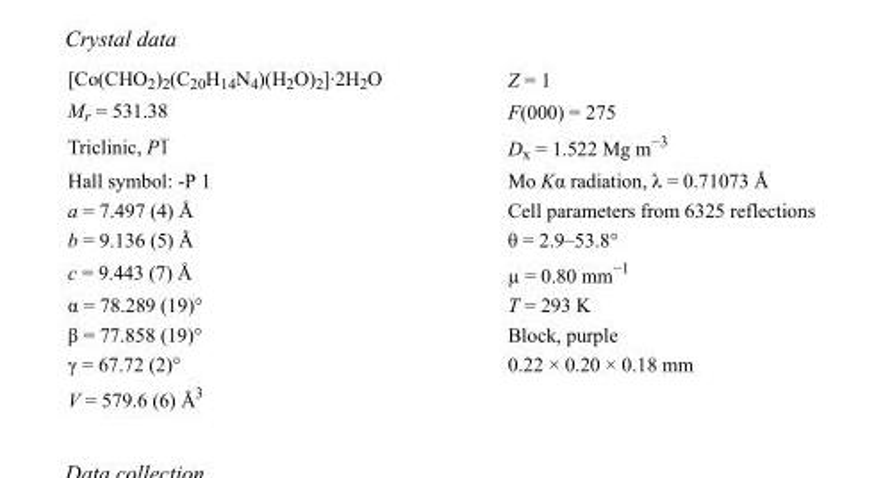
<table><tbody><tr><td>[Co(CHO<sub>2</sub>)<sub>2</sub>(C<sub>20</sub>H<sub>14</sub>N<sub>4</sub>)(H<sub>2</sub>O)<sub>2</sub>]·2H<sub>2</sub>O</td><td>Z = 1</td></tr><tr><td>M<sub>r</sub> = 531.38</td><td>F(000) = 275</td></tr><tr><td>Triclinic, P1</td><td>D<sub>x</sub> = 1.522 Mg m<sup>−3</sup></td></tr><tr><td>Hall symbol: -P 1</td><td>Mo Kα radiation, λ = 0.71073 Å</td></tr><tr><td>a = 7.497 (4) Å</td><td>Cell parameters from 6325 reflections</td></tr><tr><td>b = 9.136 (5) Å</td><td>θ = 2.9–53.8°</td></tr><tr><td>c = 9.443 (7) Å</td><td>µ = 0.80 mm<sup>−1</sup></td></tr><tr><td>α = 78.289 (19)°</td><td>T = 293 K</td></tr><tr><td>β = 77.858 (19)°</td><td>Block, purple</td></tr><tr><td>γ = 67.72 (2)°</td><td>0.22 × 0.20 × 0.18 mm</td></tr><tr><td>V = 579.6 (6) Å<sup>3</sup></td><td></td></tr></tbody></table>